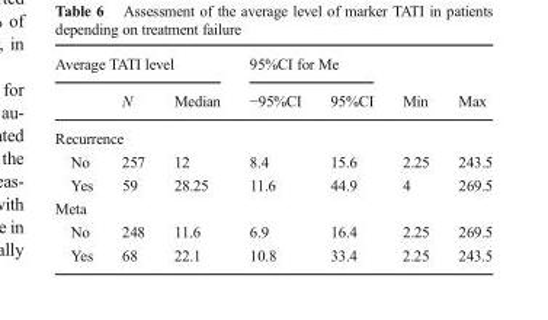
<table><thead><tr><td colspan="3">Average TATI level</td><td colspan="2">95%CI for Me</td><td rowspan="2">Min</td><td rowspan="2">Max</td></tr><tr><td></td><td>N</td><td>Median</td><td>−95%CI</td><td>95%CI</td></tr></thead><tbody><tr><td colspan="7">Recurrence</td></tr><tr><td>No</td><td>257</td><td>12</td><td>8.4</td><td>15.6</td><td>2.25</td><td>243.5</td></tr><tr><td>Yes</td><td>59</td><td>28.25</td><td>11.6</td><td>44.9</td><td>4</td><td>269.5</td></tr><tr><td colspan="7">Meta</td></tr><tr><td>No</td><td>248</td><td>11.6</td><td>6.9</td><td>16.4</td><td>2.25</td><td>269.5</td></tr><tr><td>Yes</td><td>68</td><td>22.1</td><td>10.8</td><td>33.4</td><td>2.25</td><td>243.5</td></tr></tbody></table>